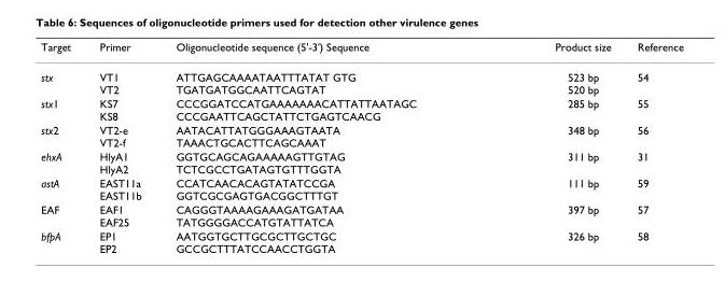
<table><thead><tr><td>Target</td><td>Primer</td><td>Oligonucleotide sequence (5&#x27;-3&#x27;) Sequence</td><td>Product size</td><td>Reference</td></tr></thead><tbody><tr><td>stx</td><td>VT1 VT2</td><td>ATTGAGCAAAATAATTTATAT GTG TGATGATGGCAATTCAGTAT</td><td>523 bp 520 bp</td><td>54</td></tr><tr><td>stx1</td><td>KS7 KS8</td><td>CCCGGATCCATGAAAAAAACATTATTAATAGC CCCGAATTCAGCTATTCTGAGTCAACG</td><td>285 bp</td><td>55</td></tr><tr><td>stx2</td><td>VT2-e VT2-f</td><td>AATACATTATGGGAAAGTAATA TAAACTGCACTTCAGCAAAT</td><td>348 bp</td><td>56</td></tr><tr><td>ehxA</td><td>HlyA1 HlyA2</td><td>GGTGCAGCAGAAAAAGTTGTAG TCTCGCCTGATAGTGTTTGGTA</td><td>311 bp</td><td>31</td></tr><tr><td>astA</td><td>EAST11a EAST11b</td><td>CCATCAACACAGTATATCCGA GGTCGCGAGTGACGGCTTTGT</td><td>111 bp</td><td>59</td></tr><tr><td>EAF</td><td>EAF1 EAF25</td><td>CAGGGTAAAAGAAAGATGATAA TATGGGGACCATGTATTATCA</td><td>397 bp</td><td>57</td></tr><tr><td>bfpA</td><td>EP1 EP2</td><td>AATGGTGCTTGCGCTTGCTGC GCCGCTTTATCCAACCTGGTA</td><td>326 bp</td><td>58</td></tr></tbody></table>